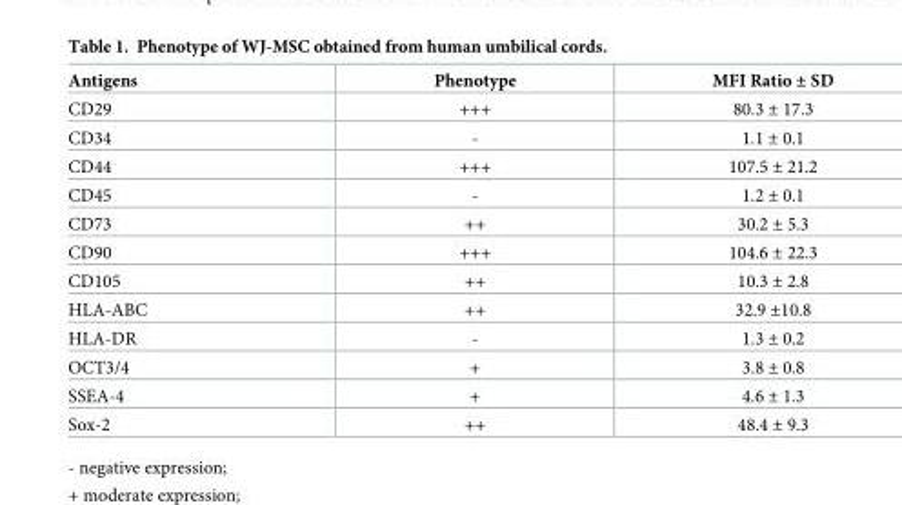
<table><thead><tr><td>Antigens</td><td>Phenotype</td><td>MFI Ratio ± SD</td></tr></thead><tbody><tr><td>CD29</td><td>+++</td><td>80.3 ± 17.3</td></tr><tr><td>CD34</td><td>-</td><td>1.1 ± 0.1</td></tr><tr><td>CD44</td><td>+++</td><td>107.5 ± 21.2</td></tr><tr><td>CD45</td><td>-</td><td>1.2 ± 0.1</td></tr><tr><td>CD73</td><td>++</td><td>30.2 ± 5.3</td></tr><tr><td>CD90</td><td>+++</td><td>104.6 ± 22.3</td></tr><tr><td>CD105</td><td>++</td><td>10.3 ± 2.8</td></tr><tr><td>HLA-ABC</td><td>++</td><td>32.9 ±10.8</td></tr><tr><td>HLA-DR</td><td>-</td><td>1.3 ± 0.2</td></tr><tr><td>OCT3/4</td><td>+</td><td>3.8 ± 0.8</td></tr><tr><td>SSEA-4</td><td>+</td><td>4.6 ± 1.3</td></tr><tr><td>Sox-2</td><td>++</td><td>48.4 ± 9.3</td></tr></tbody></table>